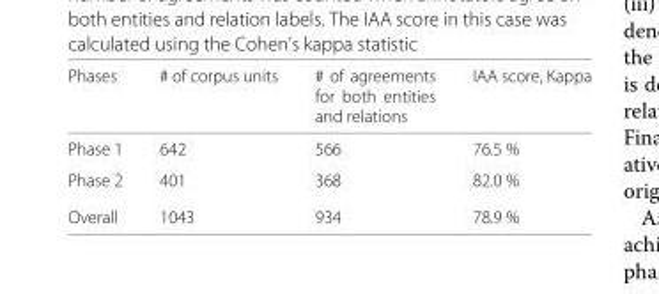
<table><thead><tr><td>Phases</td><td># of corpus units</td><td># of agreements for both entities and relations</td><td>IAA score, Kappa</td></tr></thead><tbody><tr><td>Phase 1</td><td>642</td><td>566</td><td>76.5 %</td></tr><tr><td>Phase 2</td><td>401</td><td>368</td><td>82.0 %</td></tr><tr><td>Overall</td><td>1043</td><td>934</td><td>78.9 %</td></tr></tbody></table>